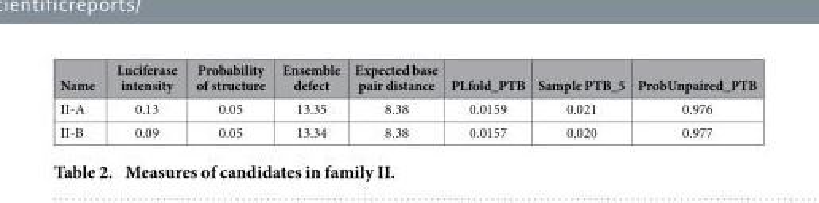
<table><thead><tr><td>Name</td><td>Luciferase intensity</td><td>Probability of structure</td><td>Ensemble defect</td><td>Expected base pair distance</td><td>PLfold_PTB</td><td>Sample PTB_5</td><td>ProbUnpaired_PTB</td></tr></thead><tbody><tr><td>II-A</td><td>0.13</td><td>0.05</td><td>13.35</td><td>8.38</td><td>0.0159</td><td>0.021</td><td>0.976</td></tr><tr><td>II-B</td><td>0.09</td><td>0.05</td><td>13.34</td><td>8.38</td><td>0.0157</td><td>0.020</td><td>0.977</td></tr></tbody></table>